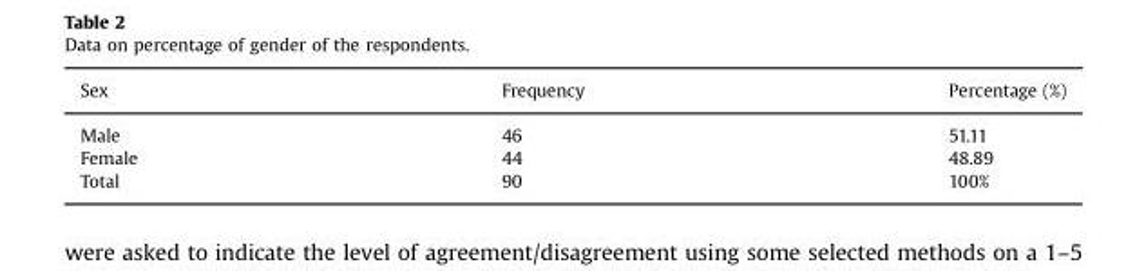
<table><thead><tr><td>Sex</td><td>Frequency</td><td>Percentage (%)</td></tr></thead><tbody><tr><td>Male</td><td>46</td><td>51.11</td></tr><tr><td>Female</td><td>44</td><td>48.89</td></tr><tr><td>Total</td><td>90</td><td>100%</td></tr></tbody></table>